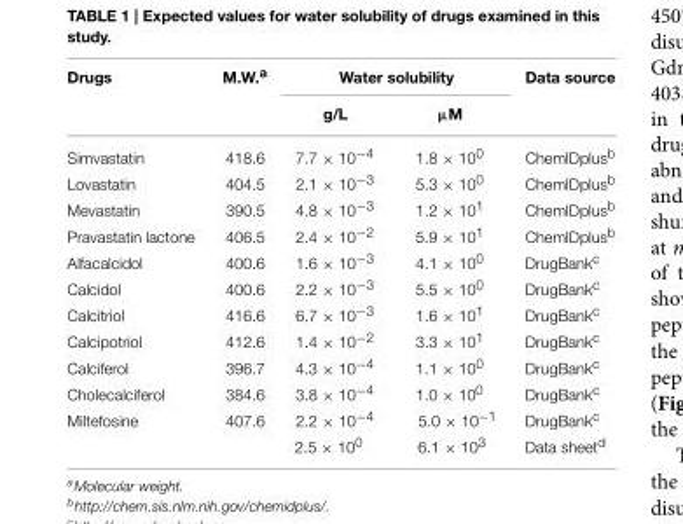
<table><thead><tr><td rowspan="2">Drugs</td><td rowspan="2">M.W.<sup>a</sup></td><td colspan="2">Water solubility</td><td rowspan="2">Data source</td></tr><tr><td>g/L</td><td>µM</td></tr></thead><tbody><tr><td>Simvastatin</td><td>418.6</td><td>7.7 × 10<sup>−4</sup></td><td>1.8 × 10<sup>0</sup></td><td>ChemIDplus<sup>b</sup></td></tr><tr><td>Lovastatin</td><td>404.5</td><td>2.1 × 10<sup>−3</sup></td><td>5.3 × 10<sup>0</sup></td><td>ChemIDplus<sup>b</sup></td></tr><tr><td>Mevastatin</td><td>390.5</td><td>4.8 × 10<sup>−3</sup></td><td>1.2 × 10<sup>1</sup></td><td>ChemIDplus<sup>b</sup></td></tr><tr><td>Pravastatin lactone</td><td>406.5</td><td>2.4 × 10<sup>−2</sup></td><td>5.9 × 10<sup>1</sup></td><td>ChemIDplus<sup>b</sup></td></tr><tr><td>Alfacalcidol</td><td>400.6</td><td>1.6 × 10<sup>−3</sup></td><td>4.1 × 10<sup>0</sup></td><td>DrugBank<sup>c</sup></td></tr><tr><td>Calcidol</td><td>400.6</td><td>2.2 × 10<sup>−3</sup></td><td>5.5 × 10<sup>0</sup></td><td>DrugBank<sup>c</sup></td></tr><tr><td>Calcitriol</td><td>416.6</td><td>6.7 × 10<sup>−3</sup></td><td>1.6 × 10<sup>1</sup></td><td>DrugBank<sup>c</sup></td></tr><tr><td>Calcipotriol</td><td>412.6</td><td>1.4 × 10<sup>−2</sup></td><td>3.3 × 10<sup>1</sup></td><td>DrugBank<sup>c</sup></td></tr><tr><td>Calciferol</td><td>396.7</td><td>4.3 × 10<sup>−4</sup></td><td>1.1 × 10<sup>0</sup></td><td>DrugBank<sup>c</sup></td></tr><tr><td>Cholecalciferol</td><td>384.6</td><td>3.8 × 10<sup>−4</sup></td><td>1.0 × 10<sup>0</sup></td><td>DrugBank<sup>c</sup></td></tr><tr><td rowspan="2">Miltefosine</td><td>407.6</td><td>2.2 × 10<sup>−4</sup></td><td>5.0 × 10<sup>−1</sup></td><td>DrugBank<sup>c</sup></td></tr><tr><td></td><td>2.5 × 10<sup>0</sup></td><td>6.1 × 10<sup>3</sup></td><td>Data sheet<sup>d</sup></td></tr></tbody></table>